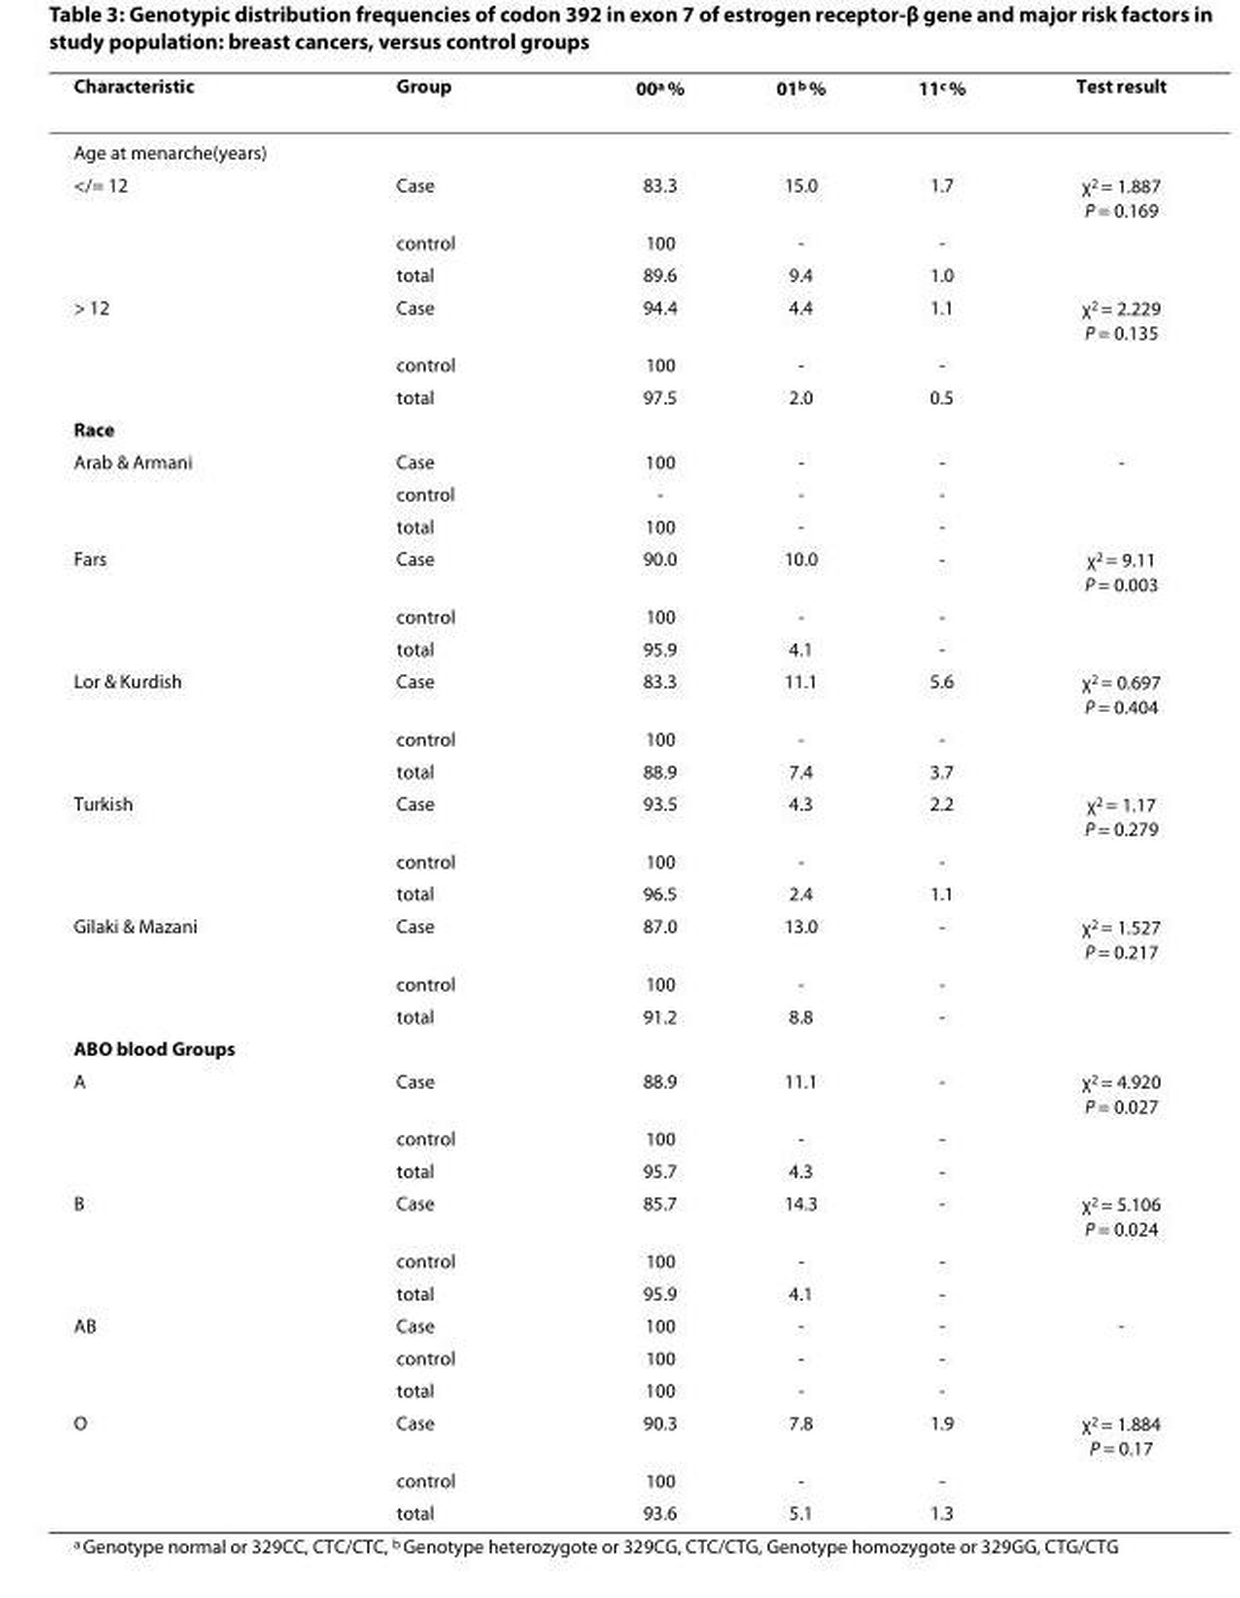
<table><thead><tr><td>Characteristic</td><td>Group</td><td>00<sup>a</sup> %</td><td>01<sup>b</sup> %</td><td>11<sup>c</sup> %</td><td>Test result</td></tr></thead><tbody><tr><td colspan="6">Age at menarche(years)</td></tr><tr><td rowspan="3">&lt;/= 12</td><td>Case</td><td>83.3</td><td>15.0</td><td>1.7</td><td>χ<sup>2</sup> = 1.887 P = 0.169</td></tr><tr><td>control</td><td>100</td><td>-</td><td>-</td><td></td></tr><tr><td>total</td><td>89.6</td><td>9.4</td><td>1.0</td><td></td></tr><tr><td rowspan="3">&gt; 12</td><td>Case</td><td>94.4</td><td>4.4</td><td>1.1</td><td>χ<sup>2</sup> = 2.229 P = 0.135</td></tr><tr><td>control</td><td>100</td><td>-</td><td>-</td><td></td></tr><tr><td>total</td><td>97.5</td><td>2.0</td><td>0.5</td><td></td></tr><tr><td colspan="6">Race</td></tr><tr><td rowspan="3">Arab &amp; Armani</td><td>Case</td><td>100</td><td>-</td><td>-</td><td>-</td></tr><tr><td>control</td><td>-</td><td>-</td><td>-</td><td></td></tr><tr><td>total</td><td>100</td><td>-</td><td>-</td><td></td></tr><tr><td rowspan="3">Fars</td><td>Case</td><td>90.0</td><td>10.0</td><td>-</td><td>χ<sup>2</sup> = 9.11 P = 0.003</td></tr><tr><td>control</td><td>100</td><td>-</td><td>-</td><td></td></tr><tr><td>total</td><td>95.9</td><td>4.1</td><td>-</td><td></td></tr><tr><td rowspan="3">Lor &amp; Kurdish</td><td>Case</td><td>83.3</td><td>11.1</td><td>5.6</td><td>χ<sup>2</sup> = 0.697 P = 0.404</td></tr><tr><td>control</td><td>100</td><td>-</td><td>-</td><td></td></tr><tr><td>total</td><td>88.9</td><td>7.4</td><td>3.7</td><td></td></tr><tr><td rowspan="3">Turkish</td><td>Case</td><td>93.5</td><td>4.3</td><td>2.2</td><td>χ<sup>2</sup> = 1.17 P = 0.279</td></tr><tr><td>control</td><td>100</td><td>-</td><td>-</td><td></td></tr><tr><td>total</td><td>96.5</td><td>2.4</td><td>1.1</td><td></td></tr><tr><td rowspan="3">Gilaki &amp; Mazani</td><td>Case</td><td>87.0</td><td>13.0</td><td>-</td><td>χ<sup>2</sup> = 1.527 P = 0.217</td></tr><tr><td>control</td><td>100</td><td>-</td><td>-</td><td></td></tr><tr><td>total</td><td>91.2</td><td>8.8</td><td>-</td><td></td></tr><tr><td colspan="6">ABO blood Groups</td></tr><tr><td rowspan="3">A</td><td>Case</td><td>88.9</td><td>11.1</td><td>-</td><td>χ<sup>2</sup> = 4.920 P = 0.027</td></tr><tr><td>control</td><td>100</td><td>-</td><td>-</td><td></td></tr><tr><td>total</td><td>95.7</td><td>4.3</td><td>-</td><td></td></tr><tr><td rowspan="3">B</td><td>Case</td><td>85.7</td><td>14.3</td><td>-</td><td>χ<sup>2</sup> = 5.106 P = 0.024</td></tr><tr><td>control</td><td>100</td><td>-</td><td>-</td><td></td></tr><tr><td>total</td><td>95.9</td><td>4.1</td><td>-</td><td></td></tr><tr><td rowspan="3">AB</td><td>Case</td><td>100</td><td>-</td><td>-</td><td>-</td></tr><tr><td>control</td><td>100</td><td>-</td><td>-</td><td></td></tr><tr><td>total</td><td>100</td><td>-</td><td>-</td><td></td></tr><tr><td rowspan="3">O</td><td>Case</td><td>90.3</td><td>7.8</td><td>1.9</td><td>χ<sup>2</sup> = 1.884 P = 0.17</td></tr><tr><td>control</td><td>100</td><td>-</td><td>-</td><td></td></tr><tr><td>total</td><td>93.6</td><td>5.1</td><td>1.3</td><td></td></tr></tbody></table>